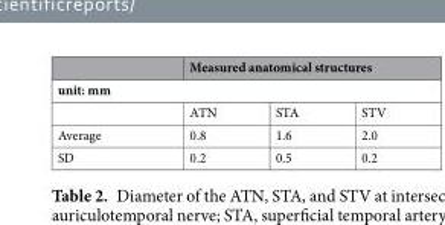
<table><thead><tr><td></td><td colspan="3">Measured anatomical structures</td></tr><tr><td colspan="4">unit: mm</td></tr><tr><td></td><td>ATN</td><td>STA</td><td>STV</td></tr></thead><tbody><tr><td>Average</td><td>0.8</td><td>1.6</td><td>2.0</td></tr><tr><td>SD</td><td>0.2</td><td>0.5</td><td>0.2</td></tr></tbody></table>